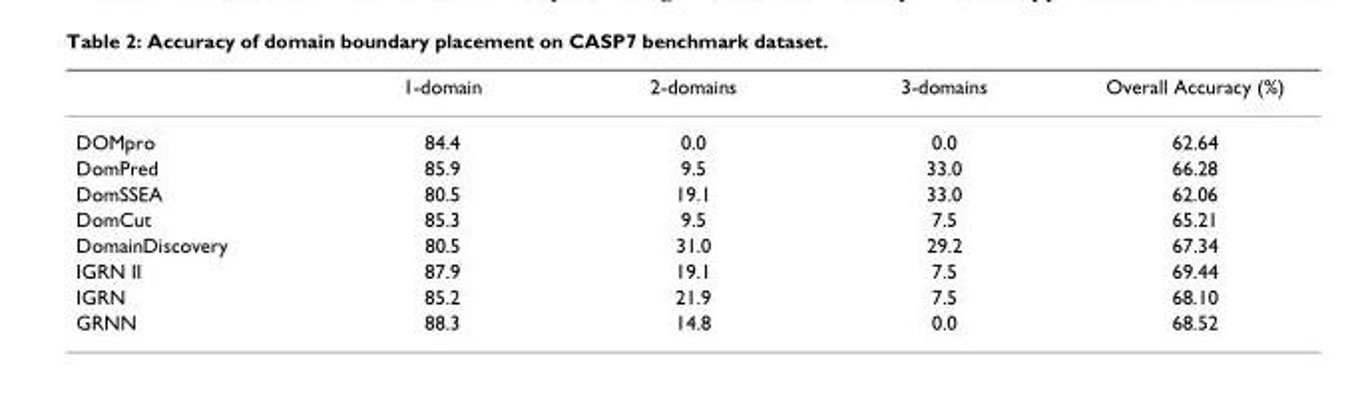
<table><thead><tr><td></td><td>1-domain</td><td>2-domains</td><td>3-domains</td><td>Overall Accuracy (%)</td></tr></thead><tbody><tr><td>DOMpro</td><td>84.4</td><td>0.0</td><td>0.0</td><td>62.64</td></tr><tr><td>DomPred</td><td>85.9</td><td>9.5</td><td>33.0</td><td>66.28</td></tr><tr><td>DomSSEA</td><td>80.5</td><td>19.1</td><td>33.0</td><td>62.06</td></tr><tr><td>DomCut</td><td>85.3</td><td>9.5</td><td>7.5</td><td>65.21</td></tr><tr><td>DomainDiscovery</td><td>80.5</td><td>31.0</td><td>29.2</td><td>67.34</td></tr><tr><td>IGRN II</td><td>87.9</td><td>19.1</td><td>7.5</td><td>69.44</td></tr><tr><td>IGRN</td><td>85.2</td><td>21.9</td><td>7.5</td><td>68.10</td></tr><tr><td>GRNN</td><td>88.3</td><td>14.8</td><td>0.0</td><td>68.52</td></tr></tbody></table>